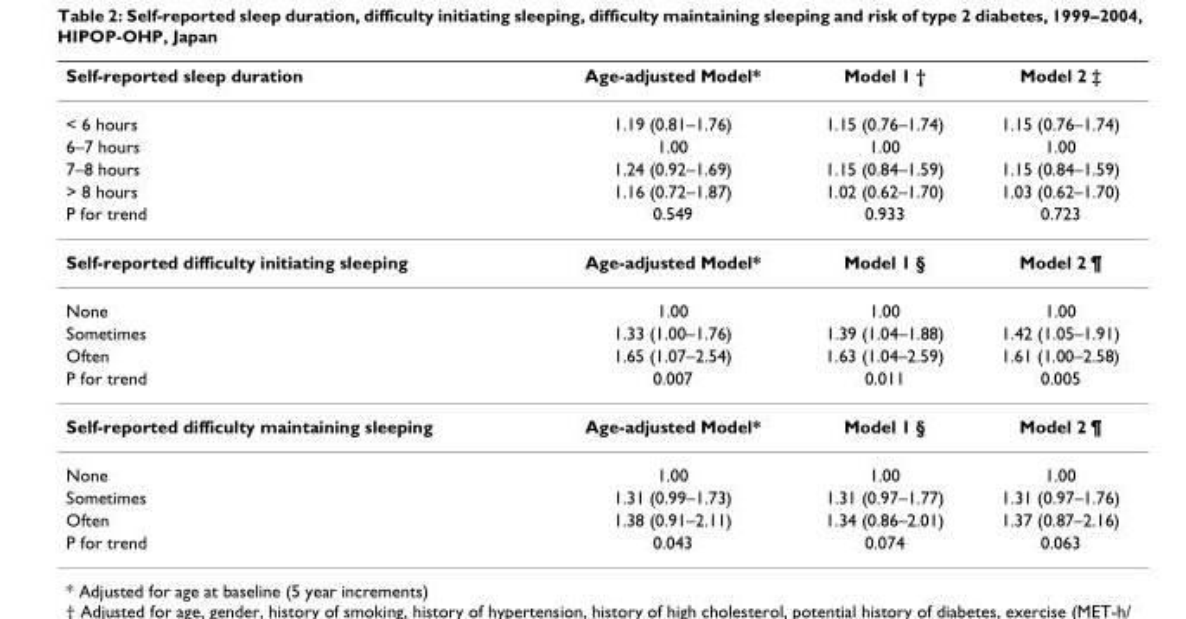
<table><thead><tr><td>Self-reported sleep duration</td><td>Age-adjusted Model*</td><td>Model 1 †</td><td>Model 2 ‡</td></tr></thead><tbody><tr><td>&lt; 6 hours</td><td>1.19 (0.81–1.76)</td><td>1.15 (0.76–1.74)</td><td>1.15 (0.76–1.74)</td></tr><tr><td>6–7 hours</td><td>1.00</td><td>1.00</td><td>1.00</td></tr><tr><td>7–8 hours</td><td>1.24 (0.92–1.69)</td><td>1.15 (0.84–1.59)</td><td>1.15 (0.84–1.59)</td></tr><tr><td>&gt; 8 hours</td><td>1.16 (0.72–1.87)</td><td>1.02 (0.62–1.70)</td><td>1.03 (0.62–1.70)</td></tr><tr><td>P for trend</td><td>0.549</td><td>0.933</td><td>0.723</td></tr><tr><td>Self-reported difficulty initiating sleeping</td><td>Age-adjusted Model*</td><td>Model 1 §</td><td>Model 2 ¶</td></tr><tr><td>None</td><td>1.00</td><td>1.00</td><td>1.00</td></tr><tr><td>Sometimes</td><td>1.33 (1.00–1.76)</td><td>1.39 (1.04–1.88)</td><td>1.42 (1.05–1.91)</td></tr><tr><td>Often</td><td>1.65 (1.07–2.54)</td><td>1.63 (1.04–2.59)</td><td>1.61 (1.00–2.58)</td></tr><tr><td>P for trend</td><td>0.007</td><td>0.011</td><td>0.005</td></tr><tr><td>Self-reported difficulty maintaining sleeping</td><td>Age-adjusted Model*</td><td>Model 1 §</td><td>Model 2 ¶</td></tr><tr><td>None</td><td>1.00</td><td>1.00</td><td>1.00</td></tr><tr><td>Sometimes</td><td>1.31 (0.99–1.73)</td><td>1.31 (0.97–1.77)</td><td>1.31 (0.97–1.76)</td></tr><tr><td>Often</td><td>1.38 (0.91–2.11)</td><td>1.34 (0.86–2.01)</td><td>1.37 (0.87–2.16)</td></tr><tr><td>P for trend</td><td>0.043</td><td>0.074</td><td>0.063</td></tr></tbody></table>